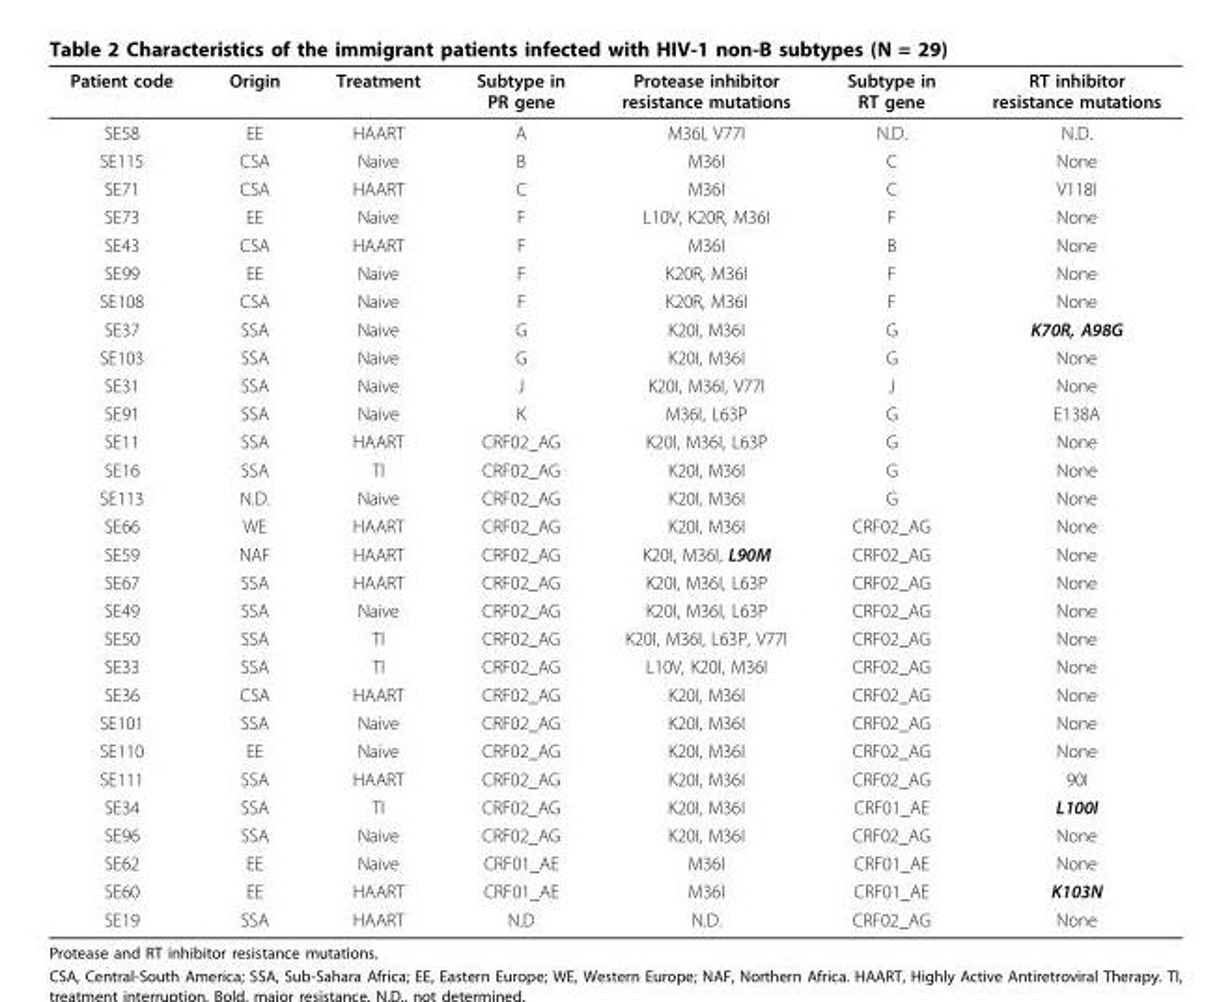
<table><thead><tr><td>Patient code</td><td>Origin</td><td>Treatment</td><td>Subtype in PR gene</td><td>Protease inhibitor resistance mutations</td><td>Subtype in RT gene</td><td>RT inhibitor resistance mutations</td></tr></thead><tbody><tr><td>SE58</td><td>EE</td><td>HAART</td><td>A</td><td>M36I, V77I</td><td>N.D.</td><td>N.D.</td></tr><tr><td>SE115</td><td>CSA</td><td>Naive</td><td>B</td><td>M36I</td><td>C</td><td>None</td></tr><tr><td>SE71</td><td>CSA</td><td>HAART</td><td>C</td><td>M36I</td><td>C</td><td>V118I</td></tr><tr><td>SE73</td><td>EE</td><td>Naive</td><td>F</td><td>L10V, K20R, M36I</td><td>F</td><td>None</td></tr><tr><td>SE43</td><td>CSA</td><td>HAART</td><td>F</td><td>M36I</td><td>B</td><td>None</td></tr><tr><td>SE99</td><td>EE</td><td>Naive</td><td>F</td><td>K20R, M36I</td><td>F</td><td>None</td></tr><tr><td>SE108</td><td>CSA</td><td>Naive</td><td>F</td><td>K20R, M36I</td><td>F</td><td>None</td></tr><tr><td>SE37</td><td>SSA</td><td>Naive</td><td>G</td><td>K20I, M36I</td><td>G</td><td>K70R, A98G</td></tr><tr><td>SE103</td><td>SSA</td><td>Naive</td><td>G</td><td>K20I, M36I</td><td>G</td><td>None</td></tr><tr><td>SE31</td><td>SSA</td><td>Naive</td><td>J</td><td>K20I, M36I, V77I</td><td>J</td><td>None</td></tr><tr><td>SE91</td><td>SSA</td><td>Naive</td><td>K</td><td>M36I, L63P</td><td>G</td><td>E138A</td></tr><tr><td>SE11</td><td>SSA</td><td>HAART</td><td>CRF02_AG</td><td>K20I, M36I, L63P</td><td>G</td><td>None</td></tr><tr><td>SE16</td><td>SSA</td><td>TI</td><td>CRF02_AG</td><td>K20I, M36I</td><td>G</td><td>None</td></tr><tr><td>SE113</td><td>N.D.</td><td>Naive</td><td>CRF02_AG</td><td>K20I, M36I</td><td>G</td><td>None</td></tr><tr><td>SE66</td><td>WE</td><td>HAART</td><td>CRF02_AG</td><td>K20I, M36I</td><td>CRF02_AG</td><td>None</td></tr><tr><td>SE59</td><td>NAF</td><td>HAART</td><td>CRF02_AG</td><td>K20I, M36I, L90M</td><td>CRF02_AG</td><td>None</td></tr><tr><td>SE67</td><td>SSA</td><td>HAART</td><td>CRF02_AG</td><td>K20I, M36I, L63P</td><td>CRF02_AG</td><td>None</td></tr><tr><td>SE49</td><td>SSA</td><td>Naive</td><td>CRF02_AG</td><td>K20I, M36I, L63P</td><td>CRF02_AG</td><td>None</td></tr><tr><td>SE50</td><td>SSA</td><td>TI</td><td>CRF02_AG</td><td>K20I, M36I, L63P, V77I</td><td>CRF02_AG</td><td>None</td></tr><tr><td>SE33</td><td>SSA</td><td>TI</td><td>CRF02_AG</td><td>L10V, K20I, M36I</td><td>CRF02_AG</td><td>None</td></tr><tr><td>SE36</td><td>CSA</td><td>HAART</td><td>CRF02_AG</td><td>K20I, M36I</td><td>CRF02_AG</td><td>None</td></tr><tr><td>SE101</td><td>SSA</td><td>Naive</td><td>CRF02_AG</td><td>K20I, M36I</td><td>CRF02_AG</td><td>None</td></tr><tr><td>SE110</td><td>EE</td><td>Naive</td><td>CRF02_AG</td><td>K20I, M36I</td><td>CRF02_AG</td><td>None</td></tr><tr><td>SE111</td><td>SSA</td><td>HAART</td><td>CRF02_AG</td><td>K20I, M36I</td><td>CRF02_AG</td><td>90I</td></tr><tr><td>SE34</td><td>SSA</td><td>TI</td><td>CRF02_AG</td><td>K20I, M36I</td><td>CRF01_AE</td><td>L100I</td></tr><tr><td>SE96</td><td>SSA</td><td>Naive</td><td>CRF02_AG</td><td>K20I, M36I</td><td>CRF02_AG</td><td>None</td></tr><tr><td>SE62</td><td>EE</td><td>Naive</td><td>CRF01_AE</td><td>M36I</td><td>CRF01_AE</td><td>None</td></tr><tr><td>SE60</td><td>EE</td><td>HAART</td><td>CRF01_AE</td><td>M36I</td><td>CRF01_AE</td><td>K103N</td></tr><tr><td>SE19</td><td>SSA</td><td>HAART</td><td>N.D</td><td>N.D.</td><td>CRF02_AG</td><td>None</td></tr></tbody></table>